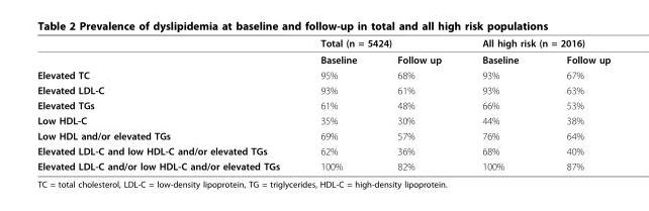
<table><thead><tr><td rowspan="2"></td><td colspan="2">Total (n = 5424)</td><td colspan="2">All high risk (n = 2016)</td></tr><tr><td>Baseline</td><td>Follow up</td><td>Baseline</td><td>Follow up</td></tr></thead><tbody><tr><td>Elevated TC</td><td>95%</td><td>68%</td><td>93%</td><td>67%</td></tr><tr><td>Elevated LDL-C</td><td>93%</td><td>61%</td><td>93%</td><td>63%</td></tr><tr><td>Elevated TGs</td><td>61%</td><td>48%</td><td>66%</td><td>53%</td></tr><tr><td>Low HDL-C</td><td>35%</td><td>30%</td><td>44%</td><td>38%</td></tr><tr><td>Low HDL and/or elevated TGs</td><td>69%</td><td>57%</td><td>76%</td><td>64%</td></tr><tr><td>Elevated LDL-C and low HDL-C and/or elevated TGs</td><td>62%</td><td>36%</td><td>68%</td><td>40%</td></tr><tr><td>Elevated LDL-C and/or low HDL-C and/or elevated TGs</td><td>100%</td><td>82%</td><td>100%</td><td>87%</td></tr></tbody></table>